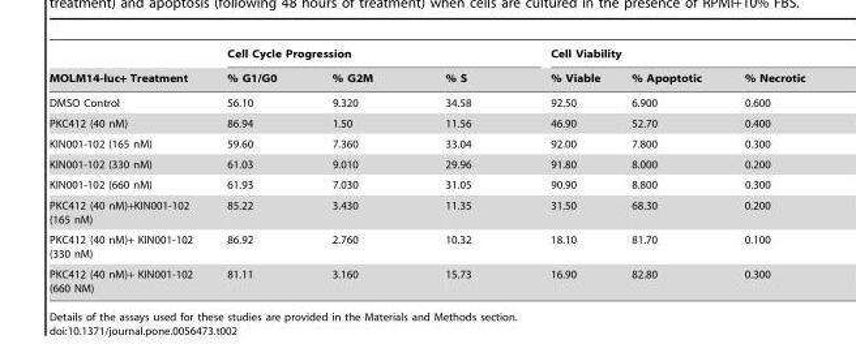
<table><thead><tr><td rowspan="2">MOLM14-luc+ Treatment</td><td colspan="3">Cell Cycle Progression</td><td colspan="3">Cell Viability</td></tr><tr><td>% G1/G0</td><td>% G2M</td><td>% S</td><td>% Viable</td><td>% Apoptotic</td><td>% Necrotic</td></tr></thead><tbody><tr><td>DMSO Control</td><td>56.10</td><td>9.320</td><td>34.58</td><td>92.50</td><td>6.900</td><td>0.600</td></tr><tr><td>PKC412 (40 nM)</td><td>86.94</td><td>1.50</td><td>11.56</td><td>46.90</td><td>52.70</td><td>0.400</td></tr><tr><td>KIN001-102 (165 nM)</td><td>59.60</td><td>7.360</td><td>33.04</td><td>92.00</td><td>7.800</td><td>0.300</td></tr><tr><td>KIN001-102 (330 nM)</td><td>61.03</td><td>9.010</td><td>29.96</td><td>91.80</td><td>8.000</td><td>0.200</td></tr><tr><td>KIN001-102 (660 nM)</td><td>61.93</td><td>7.030</td><td>31.05</td><td>90.90</td><td>8.800</td><td>0.300</td></tr><tr><td>PKC412 (40 nM)+KIN001-102 (165 nM)</td><td>85.22</td><td>3.430</td><td>11.35</td><td>31.50</td><td>68.30</td><td>0.200</td></tr><tr><td>PKC412 (40 nM)+ KIN001-102 (330 nM)</td><td>86.92</td><td>2.760</td><td>10.32</td><td>18.10</td><td>81.70</td><td>0.100</td></tr><tr><td>PKC412 (40 nM)+ KIN001-102 (660 NM)</td><td>81.11</td><td>3.160</td><td>15.73</td><td>16.90</td><td>82.80</td><td>0.300</td></tr></tbody></table>